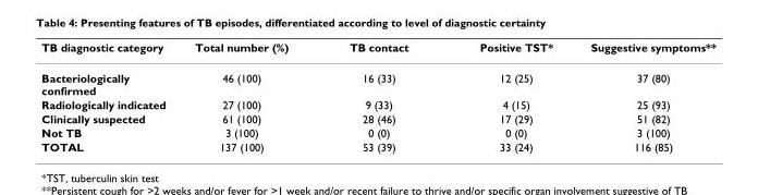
<table><thead><tr><td>TB diagnostic category</td><td>Total number (%)</td><td>TB contact</td><td>Positive TST*</td><td>Suggestive symptoms**</td></tr></thead><tbody><tr><td>Bacteriologically confirmed</td><td>46 (100)</td><td>16 (33)</td><td>12 (25)</td><td>37 (80)</td></tr><tr><td>Radiologically indicated</td><td>27 (100)</td><td>9 (33)</td><td>4 (15)</td><td>25 (93)</td></tr><tr><td>Clinically suspected</td><td>61 (100)</td><td>28 (46)</td><td>17 (29)</td><td>51 (82)</td></tr><tr><td>Not TB</td><td>3 (100)</td><td>0 (0)</td><td>0 (0)</td><td>3 (100)</td></tr><tr><td>TOTAL</td><td>137 (100)</td><td>53 (39)</td><td>33 (24)</td><td>116 (85)</td></tr></tbody></table>